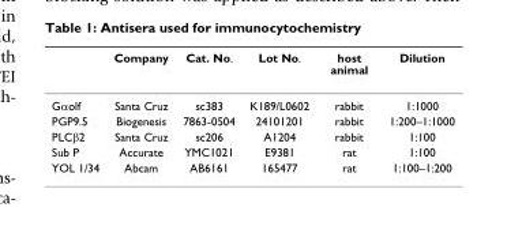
<table><thead><tr><td></td><td>Company</td><td>Cat. No.</td><td>Lot No.</td><td>host animal</td><td>Dilution</td></tr></thead><tbody><tr><td>Gαolf</td><td>Santa Cruz</td><td>sc383</td><td>K189/L0602</td><td>rabbit</td><td>1:1000</td></tr><tr><td>PGP9.5</td><td>Biogenesis</td><td>7863-0504</td><td>24101201</td><td>rabbit</td><td>1:200–1:1000</td></tr><tr><td>PLCβ2</td><td>Santa Cruz</td><td>sc206</td><td>A1204</td><td>rabbit</td><td>1:100</td></tr><tr><td>Sub P</td><td>Accurate</td><td>YMC1021</td><td>E9381</td><td>rat</td><td>1:100</td></tr><tr><td>YOL 1/34</td><td>Abcam</td><td>AB6161</td><td>165477</td><td>rat</td><td>1:100–1:200</td></tr></tbody></table>